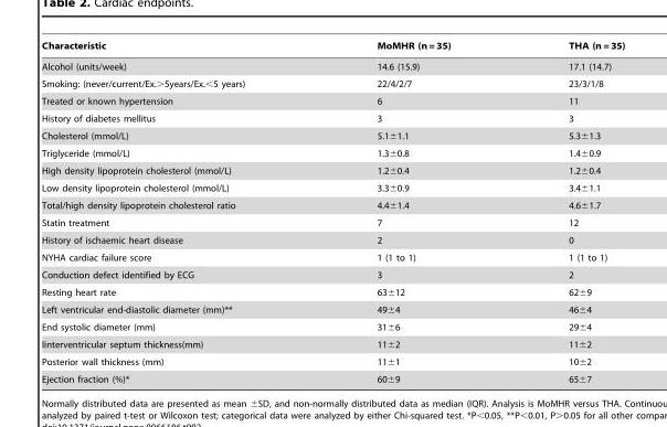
<table><thead><tr><td>Characteristic</td><td>MoMHR (n = 35)</td><td>THA (n = 35)</td></tr></thead><tbody><tr><td>Alcohol (units/week)</td><td>14.6 (15.9)</td><td>17.1 (14.7)</td></tr><tr><td>Smoking: (never/current/Ex.&gt;5years/Ex.&lt;5 years)</td><td>22/4/2/7</td><td>23/3/1/8</td></tr><tr><td>Treated or known hypertension</td><td>6</td><td>11</td></tr><tr><td>History of diabetes mellitus</td><td>3</td><td>3</td></tr><tr><td>Cholesterol (mmol/L)</td><td>5.1±1.1</td><td>5.3±1.3</td></tr><tr><td>Triglyceride (mmol/L)</td><td>1.3±0.8</td><td>1.4±0.9</td></tr><tr><td>High density lipoprotein cholesterol (mmol/L)</td><td>1.2±0.4</td><td>1.2±0.4</td></tr><tr><td>Low density lipoprotein cholesterol (mmol/L)</td><td>3.3±0.9</td><td>3.4±1.1</td></tr><tr><td>Total/high density lipoprotein cholesterol ratio</td><td>4.4±1.4</td><td>4.6±1.7</td></tr><tr><td>Statin treatment</td><td>7</td><td>12</td></tr><tr><td>History of ischaemic heart disease</td><td>2</td><td>0</td></tr><tr><td>NYHA cardiac failure score</td><td>1 (1 to 1)</td><td>1 (1 to 1)</td></tr><tr><td>Conduction defect identified by ECG</td><td>3</td><td>2</td></tr><tr><td>Resting heart rate</td><td>63±12</td><td>62±9</td></tr><tr><td>Left ventricular end-diastolic diameter (mm)**</td><td>49±4</td><td>46±4</td></tr><tr><td>End systolic diameter (mm)</td><td>31±6</td><td>29±4</td></tr><tr><td>Iinterventricular septum thickness(mm)</td><td>11±2</td><td>11±2</td></tr><tr><td>Posterior wall thickness (mm)</td><td>11±1</td><td>10±2</td></tr><tr><td>Ejection fraction (%)*</td><td>60±9</td><td>65±7</td></tr></tbody></table>